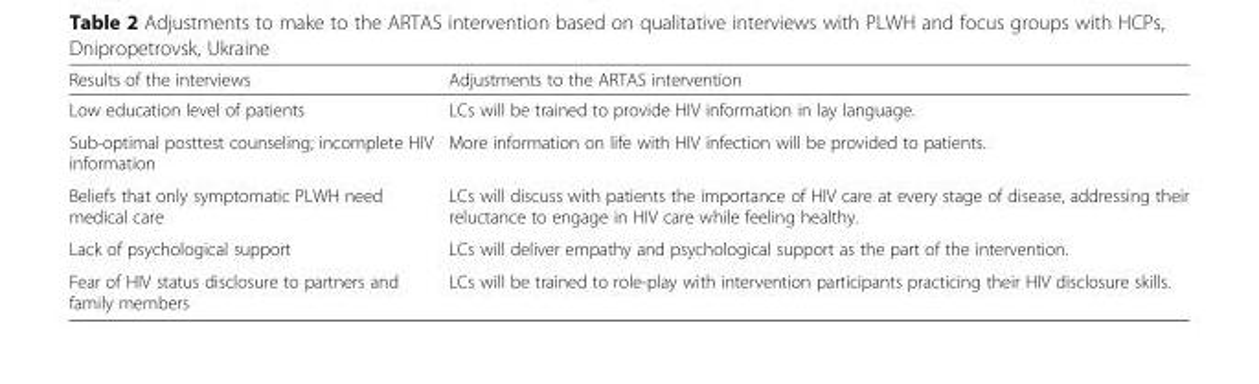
<table><thead><tr><td>Results of the interviews</td><td>Adjustments to the ARTAS intervention</td></tr></thead><tbody><tr><td>Low education level of patients</td><td>LCs will be trained to provide HIV information in lay language.</td></tr><tr><td>Sub-optimal posttest counseling; incomplete HIV information</td><td>More information on life with HIV infection will be provided to patients.</td></tr><tr><td>Beliefs that only symptomatic PLWH need medical care</td><td>LCs will discuss with patients the importance of HIV care at every stage of disease, addressing their reluctance to engage in HIV care while feeling healthy.</td></tr><tr><td>Lack of psychological support</td><td>LCs will deliver empathy and psychological support as the part of the intervention.</td></tr><tr><td>Fear of HIV status disclosure to partners and family members</td><td>LCs will be trained to role-play with intervention participants practicing their HIV disclosure skills.</td></tr></tbody></table>